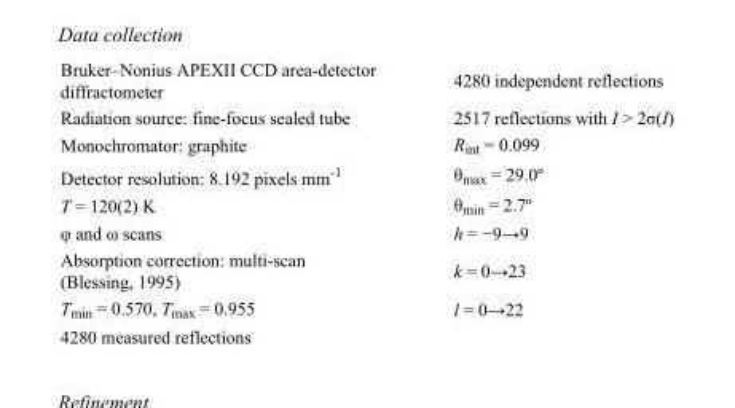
<table><tbody><tr><td>Bruker–Nonius APEXII CCD area-detector diffractometer</td><td>4280 independent reflections</td></tr><tr><td>Radiation source: fine-focus sealed tube</td><td>2517 reflections with I &gt; 2σ(I)</td></tr><tr><td>Monochromator: graphite</td><td>R<sub>int</sub> = 0.099</td></tr><tr><td>Detector resolution: 8.192 pixels mm<sup>-1</sup></td><td>θ<sub>max</sub> = 29.0º</td></tr><tr><td>T = 120(2) K</td><td>θ<sub>min</sub> = 2.7º</td></tr><tr><td>φ and ω scans</td><td>h = −9→9</td></tr><tr><td>Absorption correction: multi-scan (Blessing, 1995)</td><td>k = 0→23</td></tr><tr><td>T<sub>min</sub> = 0.570, T<sub>max</sub> = 0.955</td><td>l = 0→22</td></tr><tr><td>4280 measured reflections</td><td></td></tr></tbody></table>